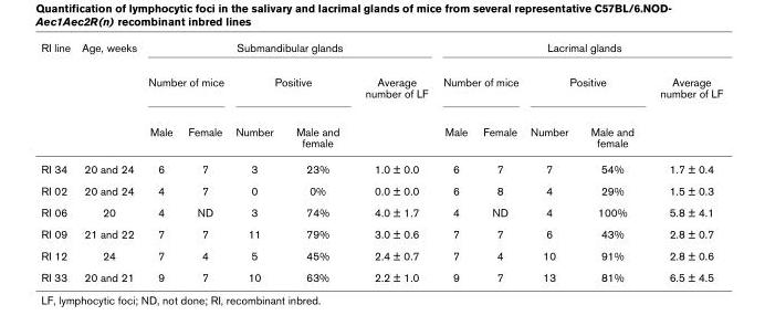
<table><thead><tr><td rowspan="3">RI line</td><td rowspan="3">Age, weeks</td><td colspan="5">Submandibular glands</td><td colspan="5">Lacrimal glands</td></tr><tr><td colspan="2">Number of mice</td><td colspan="2">Positive</td><td rowspan="2">Average number of LF</td><td colspan="2">Number of mice</td><td colspan="2">Positive</td><td rowspan="2">Average number of LF</td></tr><tr><td>Male</td><td>Female</td><td>Number</td><td>Male and female</td><td>Male</td><td>Female</td><td>Number</td><td>Male and female</td></tr></thead><tbody><tr><td>RI 34</td><td>20 and 24</td><td>6</td><td>7</td><td>3</td><td>23%</td><td>1.0 ± 0.0</td><td>6</td><td>7</td><td>7</td><td>54%</td><td>1.7 ± 0.4</td></tr><tr><td>RI 02</td><td>20 and 24</td><td>4</td><td>7</td><td>0</td><td>0%</td><td>0.0 ± 0.0</td><td>6</td><td>8</td><td>4</td><td>29%</td><td>1.5 ± 0.3</td></tr><tr><td>RI 06</td><td>20</td><td>4</td><td>ND</td><td>3</td><td>74%</td><td>4.0 ± 1.7</td><td>4</td><td>ND</td><td>4</td><td>100%</td><td>5.8 ± 4.1</td></tr><tr><td>RI 09</td><td>21 and 22</td><td>7</td><td>7</td><td>11</td><td>79%</td><td>3.0 ± 0.6</td><td>7</td><td>7</td><td>6</td><td>43%</td><td>2.8 ± 0.7</td></tr><tr><td>RI 12</td><td>24</td><td>7</td><td>4</td><td>5</td><td>45%</td><td>2.4 ± 0.7</td><td>7</td><td>4</td><td>10</td><td>91%</td><td>2.8 ± 0.6</td></tr><tr><td>RI 33</td><td>20 and 21</td><td>9</td><td>7</td><td>10</td><td>63%</td><td>2.2 ± 1.0</td><td>9</td><td>7</td><td>13</td><td>81%</td><td>6.5 ± 4.5</td></tr></tbody></table>